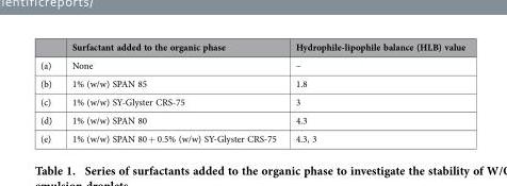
<table><thead><tr><td></td><td>Surfactant added to the organic phase</td><td>Hydrophile-lipophile balance (HLB) value</td></tr></thead><tbody><tr><td>(a)</td><td>None</td><td>–</td></tr><tr><td>(b)</td><td>1% (w/w) SPAN 85</td><td>1.8</td></tr><tr><td>(c)</td><td>1% (w/w) SY-Glyster CRS-75</td><td>3</td></tr><tr><td>(d)</td><td>1% (w/w) SPAN 80</td><td>4.3</td></tr><tr><td>(e)</td><td>1% (w/w) SPAN 80 + 0.5% (w/w) SY-Glyster CRS-75</td><td>4.3, 3</td></tr></tbody></table>